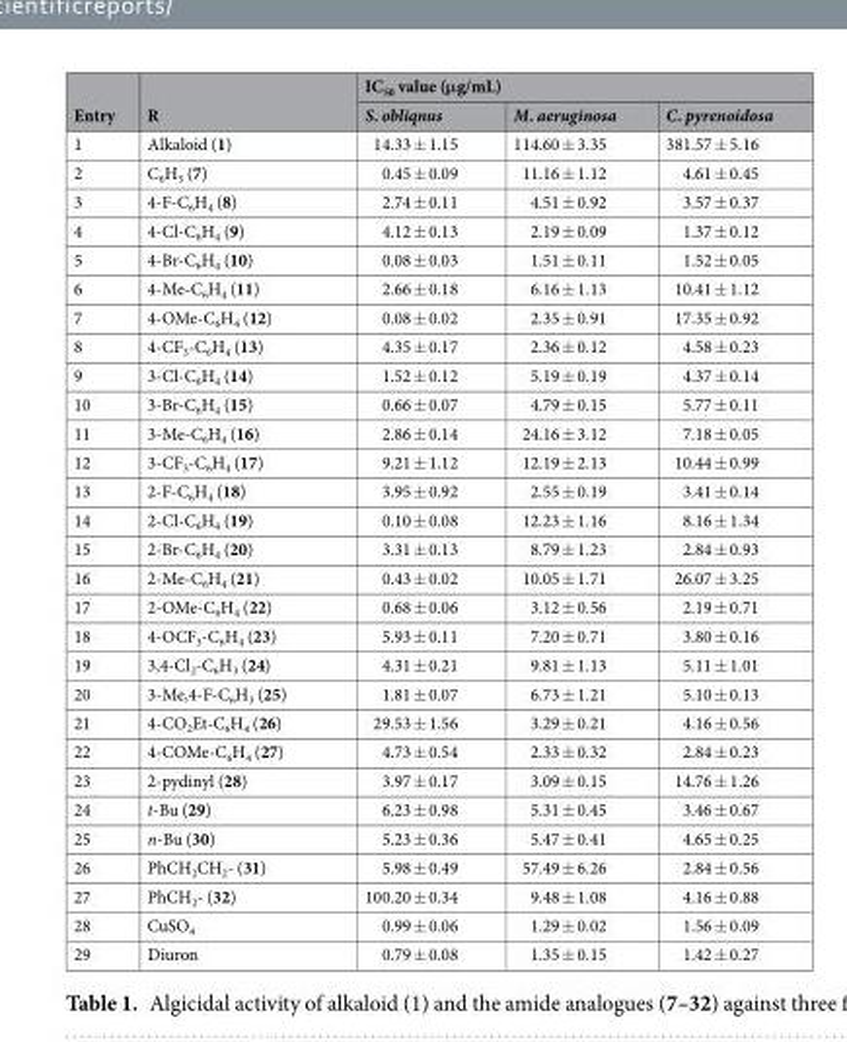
<table><thead><tr><td rowspan="2">Entry</td><td rowspan="2">R</td><td colspan="3">IC<sub>50</sub> value (μg/mL)</td></tr><tr><td>S. obliqnus</td><td>M. aeruginosa</td><td>C. pyrenoidosa</td></tr></thead><tbody><tr><td>1</td><td>Alkaloid (1)</td><td>14.33 ± 1.15</td><td>114.60 ± 3.35</td><td>381.57 ± 5.16</td></tr><tr><td>2</td><td>C<sub>6</sub>H<sub>5</sub> (7)</td><td>0.45 ± 0.09</td><td>11.16 ± 1.12</td><td>4.61 ± 0.45</td></tr><tr><td>3</td><td>4-F-C<sub>6</sub>H<sub>4</sub> (8)</td><td>2.74 ± 0.11</td><td>4.51 ± 0.92</td><td>3.57 ± 0.37</td></tr><tr><td>4</td><td>4-Cl-C<sub>6</sub>H<sub>4</sub> (9)</td><td>4.12 ± 0.13</td><td>2.19 ± 0.09</td><td>1.37 ± 0.12</td></tr><tr><td>5</td><td>4-Br-C<sub>6</sub>H<sub>4</sub> (10)</td><td>0.08 ± 0.03</td><td>1.51 ± 0.11</td><td>1.52 ± 0.05</td></tr><tr><td>6</td><td>4-Me-C<sub>6</sub>H<sub>4</sub> (11)</td><td>2.66 ± 0.18</td><td>6.16 ± 1.13</td><td>10.41 ± 1.12</td></tr><tr><td>7</td><td>4-OMe-C<sub>6</sub>H<sub>4</sub> (12)</td><td>0.08 ± 0.02</td><td>2.35 ± 0.91</td><td>17.35 ± 0.92</td></tr><tr><td>8</td><td>4-CF<sub>3</sub>-C<sub>6</sub>H<sub>4</sub> (13)</td><td>4.35 ± 0.17</td><td>2.36 ± 0.12</td><td>4.58 ± 0.23</td></tr><tr><td>9</td><td>3-Cl-C<sub>6</sub>H<sub>4</sub> (14)</td><td>1.52 ± 0.12</td><td>5.19 ± 0.19</td><td>4.37 ± 0.14</td></tr><tr><td>10</td><td>3-Br-C<sub>6</sub>H<sub>4</sub> (15)</td><td>0.66 ± 0.07</td><td>4.79 ± 0.15</td><td>5.77 ± 0.11</td></tr><tr><td>11</td><td>3-Me-C<sub>6</sub>H<sub>4</sub> (16)</td><td>2.86 ± 0.14</td><td>24.16 ± 3.12</td><td>7.18 ± 0.05</td></tr><tr><td>12</td><td>3-CF<sub>3</sub>-C<sub>6</sub>H<sub>4</sub> (17)</td><td>9.21 ± 1.12</td><td>12.19 ± 2.13</td><td>10.44 ± 0.99</td></tr><tr><td>13</td><td>2-F-C<sub>6</sub>H<sub>4</sub> (18)</td><td>3.95 ± 0.92</td><td>2.55 ± 0.19</td><td>3.41 ± 0.14</td></tr><tr><td>14</td><td>2-Cl-C<sub>6</sub>H<sub>4</sub> (19)</td><td>0.10 ± 0.08</td><td>12.23 ± 1.16</td><td>8.16 ± 1.34</td></tr><tr><td>15</td><td>2-Br-C<sub>6</sub>H<sub>4</sub> (20)</td><td>3.31 ± 0.13</td><td>8.79 ± 1.23</td><td>2.84 ± 0.93</td></tr><tr><td>16</td><td>2-Me-C<sub>6</sub>H<sub>4</sub> (21)</td><td>0.43 ± 0.02</td><td>10.05 ± 1.71</td><td>26.07 ± 3.25</td></tr><tr><td>17</td><td>2-OMe-C<sub>6</sub>H<sub>4</sub> (22)</td><td>0.68 ± 0.06</td><td>3.12 ± 0.56</td><td>2.19 ± 0.71</td></tr><tr><td>18</td><td>4-OCF<sub>3</sub>-C<sub>6</sub>H<sub>4</sub> (23)</td><td>5.93 ± 0.11</td><td>7.20 ± 0.71</td><td>3.80 ± 0.16</td></tr><tr><td>19</td><td>3,4-Cl<sub>2</sub>-C<sub>6</sub>H<sub>3</sub> (24)</td><td>4.31 ± 0.21</td><td>9.81 ± 1.13</td><td>5.11 ± 1.01</td></tr><tr><td>20</td><td>3-Me,4-F-C<sub>6</sub>H<sub>3</sub> (25)</td><td>1.81 ± 0.07</td><td>6.73 ± 1.21</td><td>5.10 ± 0.13</td></tr><tr><td>21</td><td>4-CO<sub>2</sub>Et-C<sub>6</sub>H<sub>4</sub> (26)</td><td>29.53 ± 1.56</td><td>3.29 ± 0.21</td><td>4.16 ± 0.56</td></tr><tr><td>22</td><td>4-COMe-C<sub>6</sub>H<sub>4</sub> (27)</td><td>4.73 ± 0.54</td><td>2.33 ± 0.32</td><td>2.84 ± 0.23</td></tr><tr><td>23</td><td>2-pydinyl (28)</td><td>3.97 ± 0.17</td><td>3.09 ± 0.15</td><td>14.76 ± 1.26</td></tr><tr><td>24</td><td>t-Bu (29)</td><td>6.23 ± 0.98</td><td>5.31 ± 0.45</td><td>3.46 ± 0.67</td></tr><tr><td>25</td><td>n-Bu (30)</td><td>5.23 ± 0.36</td><td>5.47 ± 0.41</td><td>4.65 ± 0.25</td></tr><tr><td>26</td><td>PhCH<sub>2</sub>CH<sub>2</sub>- (31)</td><td>5.98 ± 0.49</td><td>57.49 ± 6.26</td><td>2.84 ± 0.56</td></tr><tr><td>27</td><td>PhCH<sub>2</sub>- (32)</td><td>100.20 ± 0.34</td><td>9.48 ± 1.08</td><td>4.16 ± 0.88</td></tr><tr><td>28</td><td>CuSO<sub>4</sub></td><td>0.99 ± 0.06</td><td>1.29 ± 0.02</td><td>1.56 ± 0.09</td></tr><tr><td>29</td><td>Diuron</td><td>0.79 ± 0.08</td><td>1.35 ± 0.15</td><td>1.42 ± 0.27</td></tr></tbody></table>